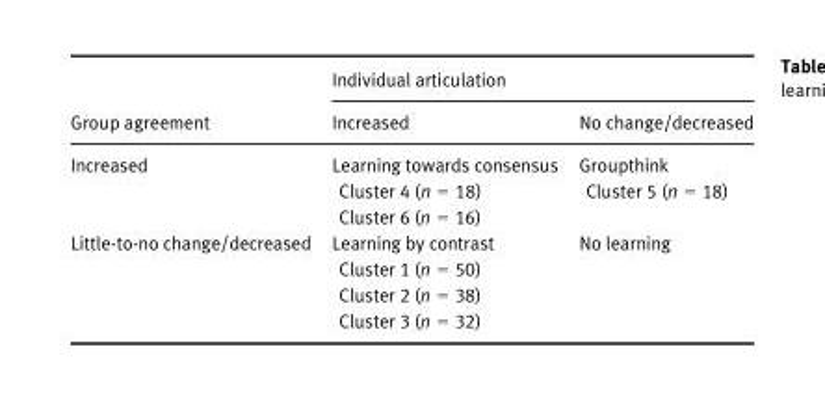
<table><thead><tr><td rowspan="2">Group agreement</td><td colspan="2">Individual articulation</td></tr><tr><td>Increased</td><td>No change/decreased</td></tr></thead><tbody><tr><td>Increased</td><td>Learning towards consensus Cluster 4 (n = 18) Cluster 6 (n = 16)</td><td>Groupthink Cluster 5 (n = 18)</td></tr><tr><td>Little-to-no change/decreased</td><td>Learning by contrast Cluster 1 (n = 50) Cluster 2 (n = 38) Cluster 3 (n = 32)</td><td>No learning</td></tr></tbody></table>